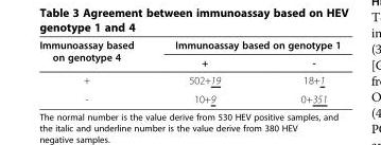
<table><thead><tr><td rowspan="2">Immunoassay based on genotype 4</td><td colspan="2">Immunoassay based on genotype 1</td></tr><tr><td>+</td><td>-</td></tr></thead><tbody><tr><td>+</td><td>502+19</td><td>18+1</td></tr><tr><td>-</td><td>10+9</td><td>0+351</td></tr></tbody></table>